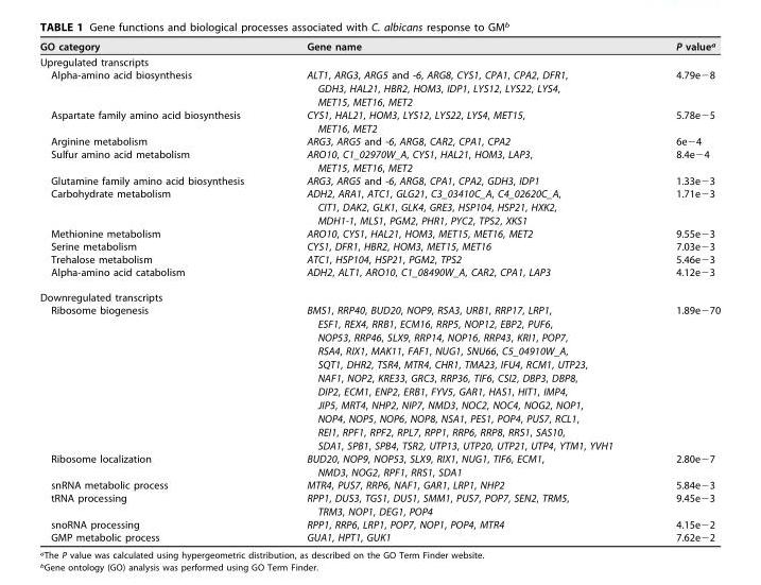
<table><thead><tr><td>GO category</td><td>Gene name</td><td>P value<sup>a</sup></td></tr></thead><tbody><tr><td colspan="3">Upregulated transcripts</td></tr><tr><td>Alpha-amino acid biosynthesis</td><td>ALT1, ARG3, ARG5 and -6, ARG8, CYS1, CPA1, CPA2, DFR1, GDH3, HAL21, HBR2, HOM3, IDP1, LYS12, LYS22, LYS4, MET15, MET16, MET2</td><td>4.79e−8</td></tr><tr><td>Aspartate family amino acid biosynthesis</td><td>CYS1, HAL21, HOM3, LYS12, LYS22, LYS4, MET15, MET16, MET2</td><td>5.78e−5</td></tr><tr><td>Arginine metabolism</td><td>ARG3, ARG5 and -6, ARG8, CAR2, CPA1, CPA2</td><td>6e−4</td></tr><tr><td>Sulfur amino acid metabolism</td><td>ARO10, C1_02970W_A, CYS1, HAL21, HOM3, LAP3, MET15, MET16, MET2</td><td>8.4e−4</td></tr><tr><td>Glutamine family amino acid biosynthesis</td><td>ARG3, ARG5 and -6, ARG8, CPA1, CPA2, GDH3, IDP1</td><td>1.33e−3</td></tr><tr><td>Carbohydrate metabolism</td><td>ADH2, ARA1, ATC1, GLG21, C3_03410C_A, C4_02620C_A, CIT1, DAK2, GLK1, GLK4, GRE3, HSP104, HSP21, HXK2, MDH1-1, MLS1, PGM2, PHR1, PYC2, TPS2, XKS1</td><td>1.71e−3</td></tr><tr><td>Methionine metabolism</td><td>ARO10, CYS1, HAL21, HOM3, MET15, MET16, MET2</td><td>9.55e−3</td></tr><tr><td>Serine metabolism</td><td>CYS1, DFR1, HBR2, HOM3, MET15, MET16</td><td>7.03e−3</td></tr><tr><td>Trehalose metabolism</td><td>ATC1, HSP104, HSP21, PGM2, TPS2</td><td>5.46e−3</td></tr><tr><td>Alpha-amino acid catabolism</td><td>ADH2, ALT1, ARO10, C1_08490W_A, CAR2, CPA1, LAP3</td><td>4.12e−3</td></tr><tr><td colspan="3">Downregulated transcripts</td></tr><tr><td>Ribosome biogenesis</td><td>BMS1, RRP40, BUD20, NOP9, RSA3, URB1, RRP17, LRP1, ESF1, REX4, RRB1, ECM16, RRP5, NOP12, EBP2, PUF6, NOP53, RRP46, SLX9, RRP14, NOP16, RRP43, KRI1, POP7, RSA4, RIX1, MAK11, FAF1, NUG1, SNU66, C5_04910W_A, SQT1, DHR2, TSR4, MTR4, CHR1, TMA23, IFU4, RCM1, UTP23, NAF1, NOP2, KRE33, GRC3, RRP36, TIF6, CSI2, DBP3, DBP8, DIP2, ECM1, ENP2, ERB1, FYV5, GAR1, HAS1, HIT1, IMP4, JIP5, MRT4, NHP2, NIP7, NMD3, NOC2, NOC4, NOG2, NOP1, NOP4, NOP5, NOP6, NOP8, NSA1, PES1, POP4, PUS7, RCL1, REI1, RPF1, RPF2, RPL7, RPP1, RRP6, RRP8, RRS1, SAS10, SDA1, SPB1, SPB4, TSR2, UTP13, UTP20, UTP21, UTP4, YTM1, YVH1</td><td>1.89e−70</td></tr><tr><td>Ribosome localization</td><td>BUD20, NOP9, NOP53, SLX9, RIX1, NUG1, TIF6, ECM1, NMD3, NOG2, RPF1, RRS1, SDA1</td><td>2.80e−7</td></tr><tr><td>snRNA metabolic process</td><td>MTR4, PUS7, RRP6, NAF1, GAR1, LRP1, NHP2</td><td>5.84e−3</td></tr><tr><td>tRNA processing</td><td>RPP1, DUS3, TGS1, DUS1, SMM1, PUS7, POP7, SEN2, TRM5, TRM3, NOP1, DEG1, POP4</td><td>9.45e−3</td></tr><tr><td>snoRNA processing</td><td>RPP1, RRP6, LRP1, POP7, NOP1, POP4, MTR4</td><td>4.15e−2</td></tr><tr><td>GMP metabolic process</td><td>GUA1, HPT1, GUK1</td><td>7.62e−2</td></tr></tbody></table>